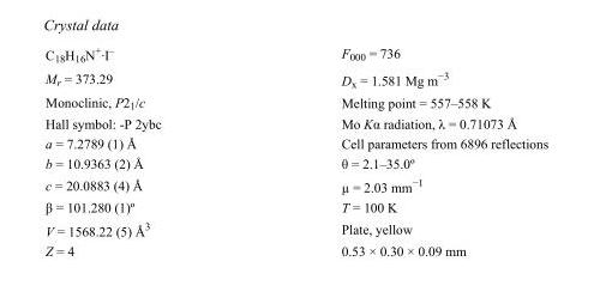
<table><tbody><tr><td>C<sub>18</sub>H<sub>16</sub>N<sup>+</sup>·I<sup>–</sup></td><td>F000 = 736</td></tr><tr><td>M<sub>r</sub> = 373.29</td><td>D<sub>x</sub> = 1.581 Mg m<sup>−3</sup></td></tr><tr><td>Monoclinic, P2<sub>1</sub>/c</td><td>Melting point = 557–558 K</td></tr><tr><td>Hall symbol: -P 2ybc</td><td>Mo Kα radiation, λ = 0.71073 Å</td></tr><tr><td>a = 7.2789 (1) Å</td><td>Cell parameters from 6896 reflections</td></tr><tr><td>b = 10.9363 (2) Å</td><td>θ = 2.1–35.0º</td></tr><tr><td>c = 20.0883 (4) Å</td><td>µ = 2.03 mm<sup>−1</sup></td></tr><tr><td>β = 101.280 (1)º</td><td>T = 100 K</td></tr><tr><td>V = 1568.22 (5) Å<sup>3</sup></td><td>Plate, yellow</td></tr><tr><td>Z = 4</td><td>0.53 × 0.30 × 0.09 mm</td></tr></tbody></table>